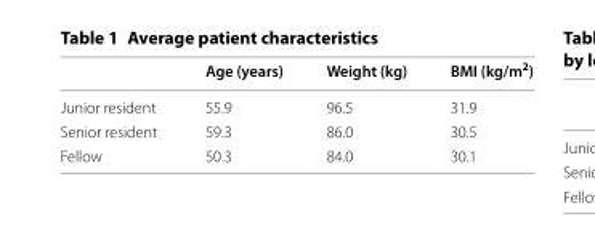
<table><thead><tr><td></td><td>Age (years)</td><td>Weight (kg)</td><td>BMI (kg/m<sup>2</sup>)</td></tr></thead><tbody><tr><td>Junior resident</td><td>55.9</td><td>96.5</td><td>31.9</td></tr><tr><td>Senior resident</td><td>59.3</td><td>86.0</td><td>30.5</td></tr><tr><td>Fellow</td><td>50.3</td><td>84.0</td><td>30.1</td></tr></tbody></table>